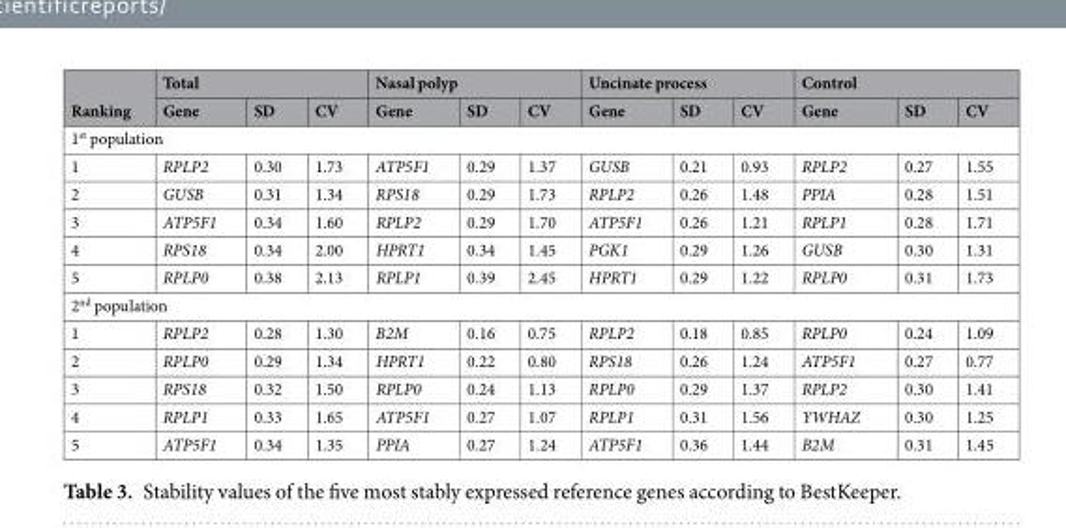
<table><thead><tr><td rowspan="2">Ranking</td><td colspan="3">Total</td><td colspan="3">Nasal polyp</td><td colspan="3">Uncinate process</td><td colspan="3">Control</td></tr><tr><td>Gene</td><td>SD</td><td>CV</td><td>Gene</td><td>SD</td><td>CV</td><td>Gene</td><td>SD</td><td>CV</td><td>Gene</td><td>SD</td><td>CV</td></tr></thead><tbody><tr><td colspan="13">1<sup>st</sup> population</td></tr><tr><td>1</td><td>RPLP2</td><td>0.30</td><td>1.73</td><td>ATP5F1</td><td>0.29</td><td>1.37</td><td>GUSB</td><td>0.21</td><td>0.93</td><td>RPLP2</td><td>0.27</td><td>1.55</td></tr><tr><td>2</td><td>GUSB</td><td>0.31</td><td>1.34</td><td>RPS18</td><td>0.29</td><td>1.73</td><td>RPLP2</td><td>0.26</td><td>1.48</td><td>PPIA</td><td>0.28</td><td>1.51</td></tr><tr><td>3</td><td>ATP5F1</td><td>0.34</td><td>1.60</td><td>RPLP2</td><td>0.29</td><td>1.70</td><td>ATP5F1</td><td>0.26</td><td>1.21</td><td>RPLP1</td><td>0.28</td><td>1.71</td></tr><tr><td>4</td><td>RPS18</td><td>0.34</td><td>2.00</td><td>HPRT1</td><td>0.34</td><td>1.45</td><td>PGK1</td><td>0.29</td><td>1.26</td><td>GUSB</td><td>0.30</td><td>1.31</td></tr><tr><td>5</td><td>RPLP0</td><td>0.38</td><td>2.13</td><td>RPLP1</td><td>0.39</td><td>2.45</td><td>HPRT1</td><td>0.29</td><td>1.22</td><td>RPLP0</td><td>0.31</td><td>1.73</td></tr><tr><td colspan="13">2<sup>nd</sup> population</td></tr><tr><td>1</td><td>RPLP2</td><td>0.28</td><td>1.30</td><td>B2M</td><td>0.16</td><td>0.75</td><td>RPLP2</td><td>0.18</td><td>0.85</td><td>RPLP0</td><td>0.24</td><td>1.09</td></tr><tr><td>2</td><td>RPLP0</td><td>0.29</td><td>1.34</td><td>HPRT1</td><td>0.22</td><td>0.80</td><td>RPS18</td><td>0.26</td><td>1.24</td><td>ATP5F1</td><td>0.27</td><td>0.77</td></tr><tr><td>3</td><td>RPS18</td><td>0.32</td><td>1.50</td><td>RPLP0</td><td>0.24</td><td>1.13</td><td>RPLP0</td><td>0.29</td><td>1.37</td><td>RPLP2</td><td>0.30</td><td>1.41</td></tr><tr><td>4</td><td>RPLP1</td><td>0.33</td><td>1.65</td><td>ATP5F1</td><td>0.27</td><td>1.07</td><td>RPLP1</td><td>0.31</td><td>1.56</td><td>YWHAZ</td><td>0.30</td><td>1.25</td></tr><tr><td>5</td><td>ATP5F1</td><td>0.34</td><td>1.35</td><td>PPIA</td><td>0.27</td><td>1.24</td><td>ATP5F1</td><td>0.36</td><td>1.44</td><td>B2M</td><td>0.31</td><td>1.45</td></tr></tbody></table>